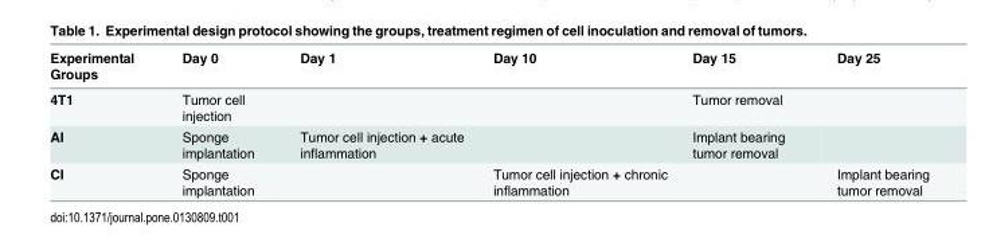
<table><thead><tr><td>Experimental Groups</td><td>Day 0</td><td>Day 1</td><td>Day 10</td><td>Day 15</td><td>Day 25</td></tr></thead><tbody><tr><td>4T1</td><td>Tumor cell injection</td><td></td><td></td><td>Tumor removal</td><td></td></tr><tr><td>AI</td><td>Sponge implantation</td><td>Tumor cell injection + acute inflammation</td><td></td><td>Implant bearing tumor removal</td><td></td></tr><tr><td>CI</td><td>Sponge implantation</td><td></td><td>Tumor cell injection + chronic inflammation</td><td></td><td>Implant bearing tumor removal</td></tr></tbody></table>